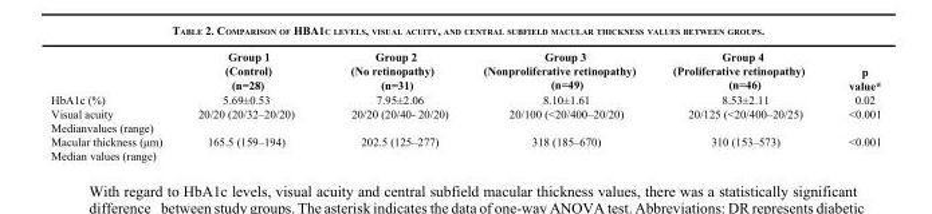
<table><thead><tr><td></td><td>Group 1 (Control) (n=28)</td><td>Group 2 (No retinopathy) (n=31)</td><td>Group 3 (Nonproliferative retinopathy) (n=49)</td><td>Group 4 (Proliferative retinopathy) (n=46)</td><td>p value*</td></tr></thead><tbody><tr><td>HbA1c (%)</td><td>5.69±0.53</td><td>7.95±2.06</td><td>8.10±1.61</td><td>8.53±2.11</td><td>0.02</td></tr><tr><td>Visual acuity Medianvalues (range)</td><td>20/20 (20/32–20/20)</td><td>20/20 (20/40- 20/20)</td><td>20/100 (&lt;20/400–20/20)</td><td>20/125 (&lt;20/400–20/25)</td><td>&lt;0.001</td></tr><tr><td>Macular thickness (μm) Median values (range)</td><td>165.5 (159–194)</td><td>202.5 (125–277)</td><td>318 (185–670)</td><td>310 (153–573)</td><td>&lt;0.001</td></tr></tbody></table>